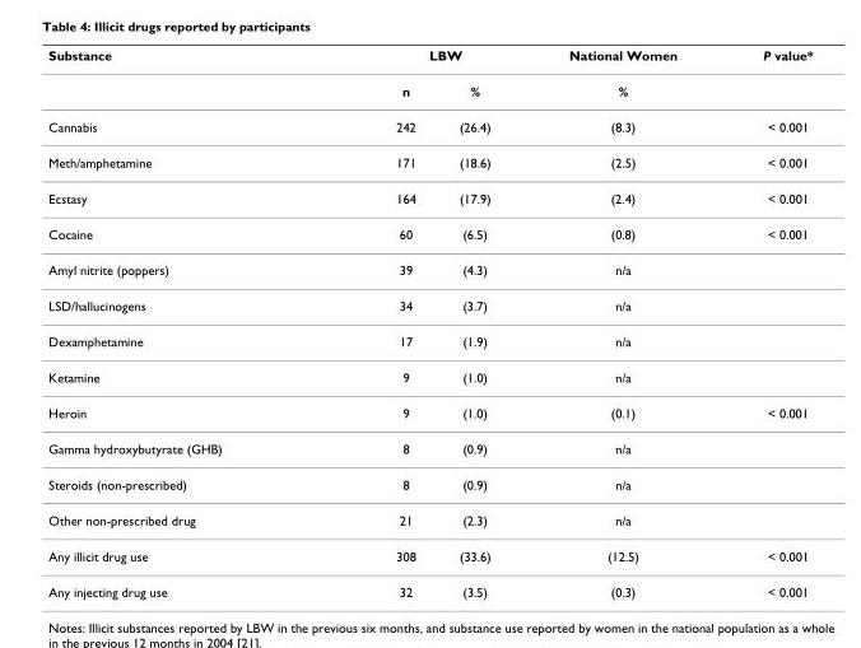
<table><thead><tr><td rowspan="2">Substance</td><td colspan="2">LBW</td><td rowspan="2">National Women %</td><td rowspan="2">P value*</td></tr><tr><td>n</td><td>%</td></tr></thead><tbody><tr><td>Cannabis</td><td>242</td><td>(26.4)</td><td>(8.3)</td><td>&lt; 0.001</td></tr><tr><td>Meth/amphetamine</td><td>171</td><td>(18.6)</td><td>(2.5)</td><td>&lt; 0.001</td></tr><tr><td>Ecstasy</td><td>164</td><td>(17.9)</td><td>(2.4)</td><td>&lt; 0.001</td></tr><tr><td>Cocaine</td><td>60</td><td>(6.5)</td><td>(0.8)</td><td>&lt; 0.001</td></tr><tr><td>Amyl nitrite (poppers)</td><td>39</td><td>(4.3)</td><td>n/a</td><td></td></tr><tr><td>LSD/hallucinogens</td><td>34</td><td>(3.7)</td><td>n/a</td><td></td></tr><tr><td>Dexamphetamine</td><td>17</td><td>(1.9)</td><td>n/a</td><td></td></tr><tr><td>Ketamine</td><td>9</td><td>(1.0)</td><td>n/a</td><td></td></tr><tr><td>Heroin</td><td>9</td><td>(1.0)</td><td>(0.1)</td><td>&lt; 0.001</td></tr><tr><td>Gamma hydroxybutyrate (GHB)</td><td>8</td><td>(0.9)</td><td>n/a</td><td></td></tr><tr><td>Steroids (non-prescribed)</td><td>8</td><td>(0.9)</td><td>n/a</td><td></td></tr><tr><td>Other non-prescribed drug</td><td>21</td><td>(2.3)</td><td>n/a</td><td></td></tr><tr><td>Any illicit drug use</td><td>308</td><td>(33.6)</td><td>(12.5)</td><td>&lt; 0.001</td></tr><tr><td>Any injecting drug use</td><td>32</td><td>(3.5)</td><td>(0.3)</td><td>&lt; 0.001</td></tr></tbody></table>